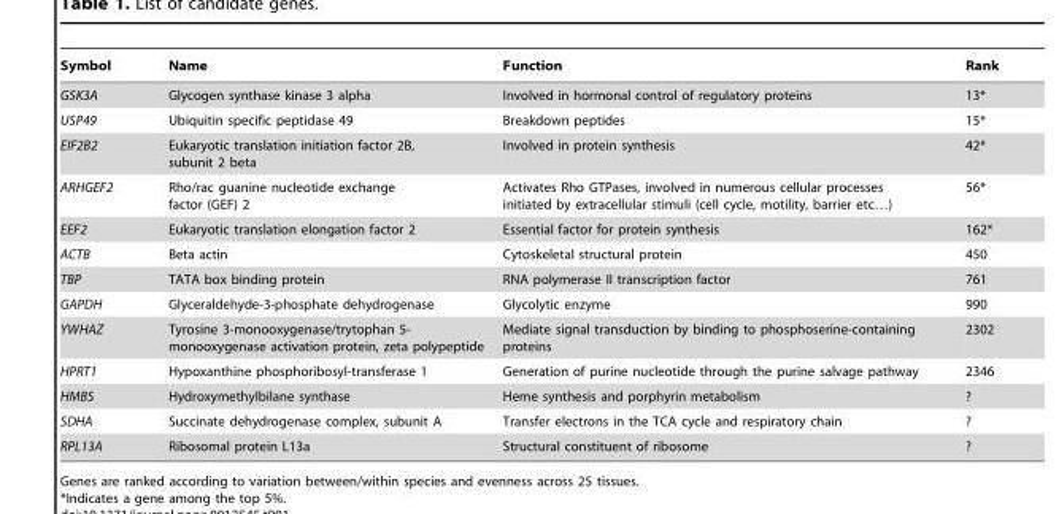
<table><thead><tr><td>Symbol</td><td>Name</td><td>Function</td><td>Rank</td></tr></thead><tbody><tr><td>GSK3A</td><td>Glycogen synthase kinase 3 alpha</td><td>Involved in hormonal control of regulatory proteins</td><td>13*</td></tr><tr><td>USP49</td><td>Ubiquitin specific peptidase 49</td><td>Breakdown peptides</td><td>15*</td></tr><tr><td>EIF2B2</td><td>Eukaryotic translation initiation factor 2B, subunit 2 beta</td><td>Involved in protein synthesis</td><td>42*</td></tr><tr><td>ARHGEF2</td><td>Rho/rac guanine nucleotide exchange factor (GEF) 2</td><td>Activates Rho GTPases, involved in numerous cellular processes initiated by extracellular stimuli (cell cycle, motility, barrier etc…)</td><td>56*</td></tr><tr><td>EEF2</td><td>Eukaryotic translation elongation factor 2</td><td>Essential factor for protein synthesis</td><td>162*</td></tr><tr><td>ACTB</td><td>Beta actin</td><td>Cytoskeletal structural protein</td><td>450</td></tr><tr><td>TBP</td><td>TATA box binding protein</td><td>RNA polymerase II transcription factor</td><td>761</td></tr><tr><td>GAPDH</td><td>Glyceraldehyde-3-phosphate dehydrogenase</td><td>Glycolytic enzyme</td><td>990</td></tr><tr><td>YWHAZ</td><td>Tyrosine 3-monooxygenase/trytophan 5- monooxygenase activation protein, zeta polypeptide</td><td>Mediate signal transduction by binding to phosphoserine-containing proteins</td><td>2302</td></tr><tr><td>HPRT1</td><td>Hypoxanthine phosphoribosyl-transferase 1</td><td>Generation of purine nucleotide through the purine salvage pathway</td><td>2346</td></tr><tr><td>HMBS</td><td>Hydroxymethylbilane synthase</td><td>Heme synthesis and porphyrin metabolism</td><td>?</td></tr><tr><td>SDHA</td><td>Succinate dehydrogenase complex, subunit A</td><td>Transfer electrons in the TCA cycle and respiratory chain</td><td>?</td></tr><tr><td>RPL13A</td><td>Ribosomal protein L13a</td><td>Structural constituent of ribosome</td><td>?</td></tr></tbody></table>